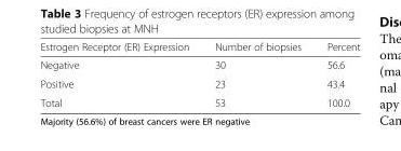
<table><thead><tr><td>Estrogen Receptor (ER) Expression</td><td>Number of biopsies</td><td>Percent</td></tr></thead><tbody><tr><td>Negative</td><td>30</td><td>56.6</td></tr><tr><td>Positive</td><td>23</td><td>43.4</td></tr><tr><td>Total</td><td>53</td><td>100.0</td></tr></tbody></table>